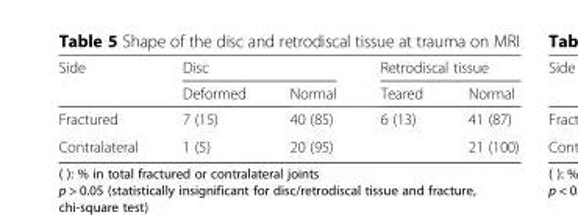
<table><thead><tr><td rowspan="2">Side</td><td colspan="2">Disc</td><td colspan="2">Retrodiscal tissue</td></tr><tr><td>Deformed</td><td>Normal</td><td>Teared</td><td>Normal</td></tr></thead><tbody><tr><td>Fractured</td><td>7 (15)</td><td>40 (85)</td><td>6 (13)</td><td>41 (87)</td></tr><tr><td>Contralateral</td><td>1 (5)</td><td>20 (95)</td><td></td><td>21 (100)</td></tr></tbody></table>